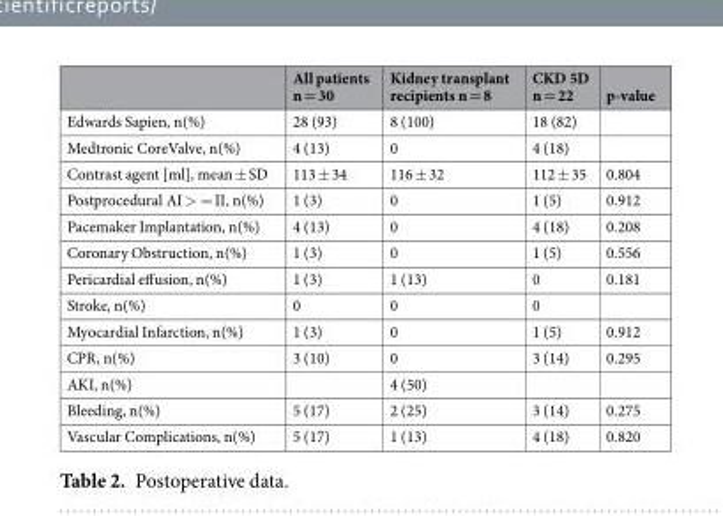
<table><thead><tr><td></td><td>All patients n = 30</td><td>Kidney transplant recipients n = 8</td><td>CKD 5D n = 22</td><td>p-value</td></tr></thead><tbody><tr><td>Edwards Sapien, n(%)</td><td>28 (93)</td><td>8 (100)</td><td>18 (82)</td><td></td></tr><tr><td>Medtronic CoreValve, n(%)</td><td>4 (13)</td><td>0</td><td>4 (18)</td><td></td></tr><tr><td>Contrast agent [ml], mean ± SD</td><td>113 ± 34</td><td>116 ± 32</td><td>112 ± 35</td><td>0.804</td></tr><tr><td>Postprocedural AI &gt; = II, n(%)</td><td>1 (3)</td><td>0</td><td>1 (5)</td><td>0.912</td></tr><tr><td>Pacemaker Implantation, n(%)</td><td>4 (13)</td><td>0</td><td>4 (18)</td><td>0.208</td></tr><tr><td>Coronary Obstruction, n(%)</td><td>1 (3)</td><td>0</td><td>1 (5)</td><td>0.556</td></tr><tr><td>Pericardial effusion, n(%)</td><td>1 (3)</td><td>1 (13)</td><td>0</td><td>0.181</td></tr><tr><td>Stroke, n(%)</td><td>0</td><td>0</td><td>0</td><td></td></tr><tr><td>Myocardial Infarction, n(%)</td><td>1 (3)</td><td>0</td><td>1 (5)</td><td>0.912</td></tr><tr><td>CPR, n(%)</td><td>3 (10)</td><td>0</td><td>3 (14)</td><td>0.295</td></tr><tr><td>AKI, n(%)</td><td></td><td>4 (50)</td><td></td><td></td></tr><tr><td>Bleeding, n(%)</td><td>5 (17)</td><td>2 (25)</td><td>3 (14)</td><td>0.275</td></tr><tr><td>Vascular Complications, n(%)</td><td>5 (17)</td><td>1 (13)</td><td>4 (18)</td><td>0.820</td></tr></tbody></table>